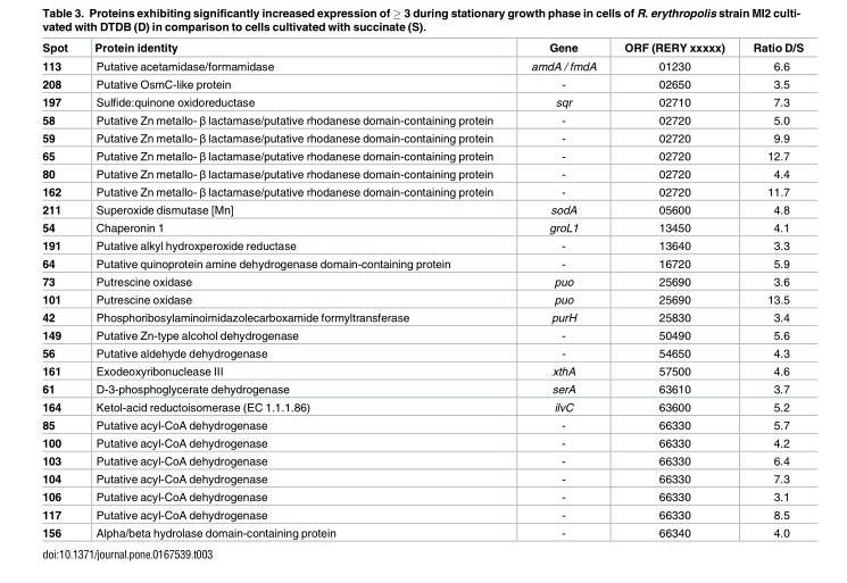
<table><thead><tr><td>Spot</td><td>Protein identity</td><td>Gene</td><td>ORF (RERY xxxxx)</td><td>Ratio D/S</td></tr></thead><tbody><tr><td>113</td><td>Putative acetamidase/formamidase</td><td>amdA / fmdA</td><td>01230</td><td>6.6</td></tr><tr><td>208</td><td>Putative OsmC-like protein</td><td>-</td><td>02650</td><td>3.5</td></tr><tr><td>197</td><td>Sulfide:quinone oxidoreductase</td><td>sqr</td><td>02710</td><td>7.3</td></tr><tr><td>58</td><td>Putative Zn metallo- β lactamase/putative rhodanese domain-containing protein</td><td>-</td><td>02720</td><td>5.0</td></tr><tr><td>59</td><td>Putative Zn metallo- β lactamase/putative rhodanese domain-containing protein</td><td>-</td><td>02720</td><td>9.9</td></tr><tr><td>65</td><td>Putative Zn metallo- β lactamase/putative rhodanese domain-containing protein</td><td>-</td><td>02720</td><td>12.7</td></tr><tr><td>80</td><td>Putative Zn metallo- β lactamase/putative rhodanese domain-containing protein</td><td>-</td><td>02720</td><td>4.4</td></tr><tr><td>162</td><td>Putative Zn metallo- β lactamase/putative rhodanese domain-containing protein</td><td>-</td><td>02720</td><td>11.7</td></tr><tr><td>211</td><td>Superoxide dismutase [Mn]</td><td>sodA</td><td>05600</td><td>4.8</td></tr><tr><td>54</td><td>Chaperonin 1</td><td>groL1</td><td>13450</td><td>4.1</td></tr><tr><td>191</td><td>Putative alkyl hydroxperoxide reductase</td><td>-</td><td>13640</td><td>3.3</td></tr><tr><td>64</td><td>Putative quinoprotein amine dehydrogenase domain-containing protein</td><td>-</td><td>16720</td><td>5.9</td></tr><tr><td>73</td><td>Putrescine oxidase</td><td>puo</td><td>25690</td><td>3.6</td></tr><tr><td>101</td><td>Putrescine oxidase</td><td>puo</td><td>25690</td><td>13.5</td></tr><tr><td>42</td><td>Phosphoribosylaminoimidazolecarboxamide formyltransferase</td><td>purH</td><td>25830</td><td>3.4</td></tr><tr><td>149</td><td>Putative Zn-type alcohol dehydrogenase</td><td>-</td><td>50490</td><td>5.6</td></tr><tr><td>56</td><td>Putative aldehyde dehydrogenase</td><td>-</td><td>54650</td><td>4.3</td></tr><tr><td>161</td><td>Exodeoxyribonuclease III</td><td>xthA</td><td>57500</td><td>4.6</td></tr><tr><td>61</td><td>D-3-phosphoglycerate dehydrogenase</td><td>serA</td><td>63610</td><td>3.7</td></tr><tr><td>164</td><td>Ketol-acid reductoisomerase (EC 1.1.1.86)</td><td>ilvC</td><td>63600</td><td>5.2</td></tr><tr><td>85</td><td>Putative acyl-CoA dehydrogenase</td><td>-</td><td>66330</td><td>5.7</td></tr><tr><td>100</td><td>Putative acyl-CoA dehydrogenase</td><td>-</td><td>66330</td><td>4.2</td></tr><tr><td>103</td><td>Putative acyl-CoA dehydrogenase</td><td>-</td><td>66330</td><td>6.4</td></tr><tr><td>104</td><td>Putative acyl-CoA dehydrogenase</td><td>-</td><td>66330</td><td>7.3</td></tr><tr><td>106</td><td>Putative acyl-CoA dehydrogenase</td><td>-</td><td>66330</td><td>3.1</td></tr><tr><td>117</td><td>Putative acyl-CoA dehydrogenase</td><td>-</td><td>66330</td><td>8.5</td></tr><tr><td>156</td><td>Alpha/beta hydrolase domain-containing protein</td><td>-</td><td>66340</td><td>4.0</td></tr></tbody></table>